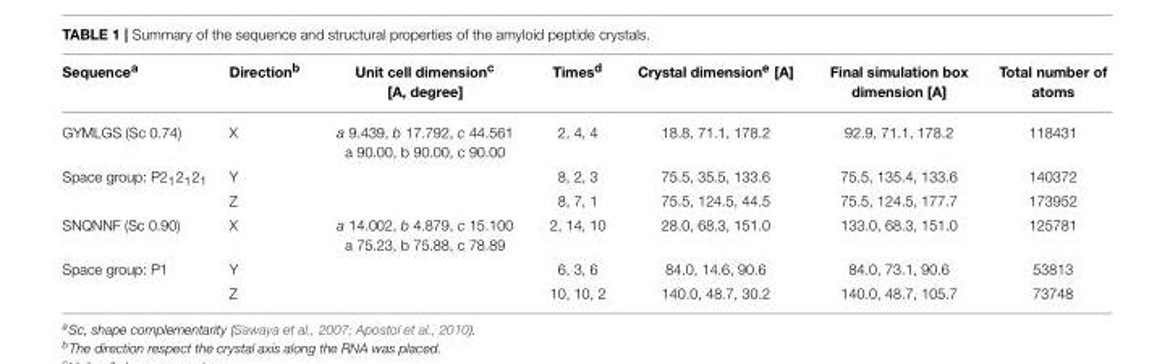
<table><thead><tr><td>Sequence<sup>a</sup></td><td>Direction<sup>b</sup></td><td>Unit cell dimension<sup>c</sup> [A, degree]</td><td>Times<sup>d</sup></td><td>Crystal dimension<sup>e</sup> [A]</td><td>Final simulation box dimension [A]</td><td>Total number of atoms</td></tr></thead><tbody><tr><td>GYMLGS (Sc 0.74)</td><td>X</td><td>a 9.439, b 17.792, c 44.561 a 90.00, b 90.00, c 90.00</td><td>2, 4, 4</td><td>18.8, 71.1, 178.2</td><td>92.9, 71.1, 178.2</td><td>118431</td></tr><tr><td rowspan="2">Space group: P2<sub>1</sub>2<sub>1</sub>2<sub>1</sub></td><td>Y</td><td></td><td>8, 2, 3</td><td>75.5, 35.5, 133.6</td><td>75.5, 135.4, 133.6</td><td>140372</td></tr><tr><td>Z</td><td></td><td>8, 7, 1</td><td>75.5, 124.5, 44.5</td><td>75.5, 124.5, 177.7</td><td>173952</td></tr><tr><td>SNQNNF (Sc 0.90)</td><td>X</td><td>a 14.002, b 4.879, c 15.100 a 75.23, b 75.88, c 78.89</td><td>2, 14, 10</td><td>28.0, 68.3, 151.0</td><td>133.0, 68.3, 151.0</td><td>125781</td></tr><tr><td rowspan="2">Space group: P1</td><td>Y</td><td></td><td>6, 3, 6</td><td>84.0, 14.6, 90.6</td><td>84.0, 73.1, 90.6</td><td>53813</td></tr><tr><td>Z</td><td></td><td>10, 10, 2</td><td>140.0, 48.7, 30.2</td><td>140.0, 48.7, 105.7</td><td>73748</td></tr></tbody></table>